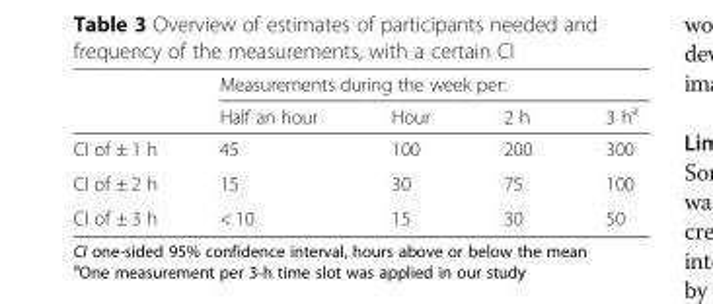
<table><thead><tr><td rowspan="2"></td><td colspan="4">Measurements during the week per:</td></tr><tr><td>Half an hour</td><td>Hour</td><td>2 h</td><td>3 h<sup>a</sup></td></tr></thead><tbody><tr><td>CI of ± 1 h</td><td>45</td><td>100</td><td>200</td><td>300</td></tr><tr><td>CI of ± 2 h</td><td>15</td><td>30</td><td>75</td><td>100</td></tr><tr><td>CI of ± 3 h</td><td>&lt; 10</td><td>15</td><td>30</td><td>50</td></tr></tbody></table>